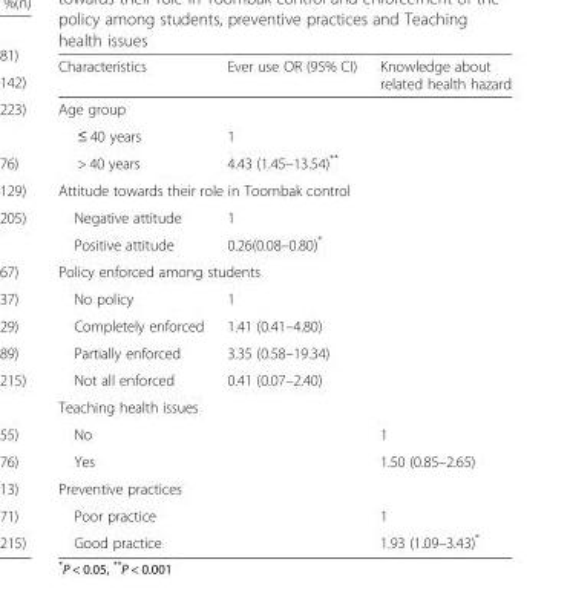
<table><thead><tr><td>Characteristics</td><td>Ever use OR (95% CI)</td><td>Knowledge about related health hazard</td></tr></thead><tbody><tr><td colspan="3">Age group</td></tr><tr><td>≤ 40 years</td><td>1</td><td></td></tr><tr><td>&gt; 40 years</td><td>4.43 (1.45–13.54)**</td><td></td></tr><tr><td colspan="3">Attitude towards their role in Toombak control</td></tr><tr><td>Negative attitude</td><td>1</td><td></td></tr><tr><td>Positive attitude</td><td>0.26(0.08–0.80)*</td><td></td></tr><tr><td colspan="3">Policy enforced among students</td></tr><tr><td>No policy</td><td>1</td><td></td></tr><tr><td>Completely enforced</td><td>1.41 (0.41–4.80)</td><td></td></tr><tr><td>Partially enforced</td><td>3.35 (0.58–19.34)</td><td></td></tr><tr><td>Not all enforced</td><td>0.41 (0.07–2.40)</td><td></td></tr><tr><td colspan="3">Teaching health issues</td></tr><tr><td>No</td><td></td><td>1</td></tr><tr><td>Yes</td><td></td><td>1.50 (0.85–2.65)</td></tr><tr><td colspan="3">Preventive practices</td></tr><tr><td>Poor practice</td><td></td><td>1</td></tr><tr><td>Good practice</td><td></td><td>1.93 (1.09–3.43)*</td></tr></tbody></table>